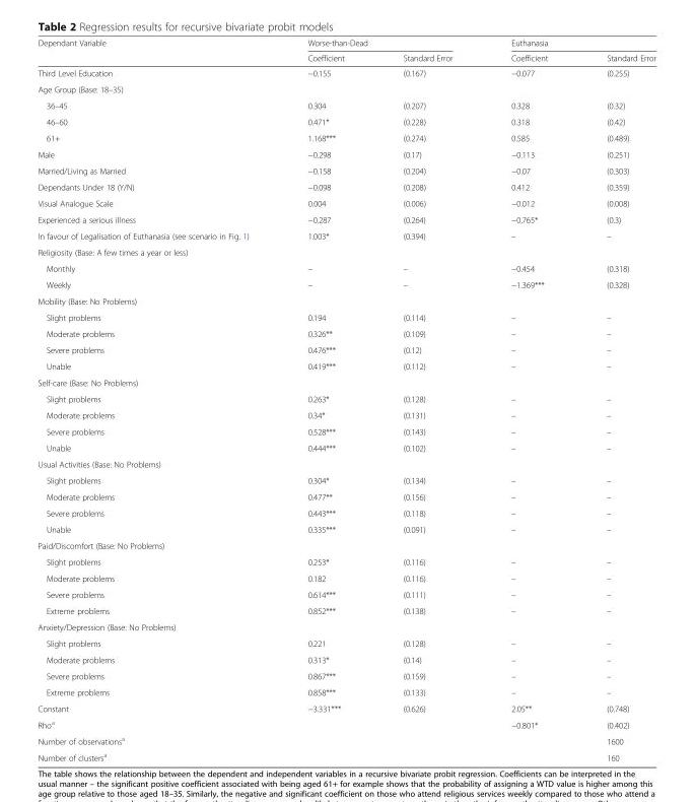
<table><thead><tr><td rowspan="2">Dependant Variable</td><td colspan="2">Worse-than-Dead</td><td colspan="2">Euthanasia</td></tr><tr><td>Coefficient</td><td>Standard Error</td><td>Coefficient</td><td>Standard Error</td></tr></thead><tbody><tr><td>Third Level Education</td><td>−0.155</td><td>(0.167)</td><td>−0.077</td><td>(0.255)</td></tr><tr><td colspan="5">Age Group (Base: 18–35)</td></tr><tr><td>36–45</td><td>0.304</td><td>(0.207)</td><td>0.328</td><td>(0.32)</td></tr><tr><td>46–60</td><td>0.471*</td><td>(0.228)</td><td>0.318</td><td>(0.42)</td></tr><tr><td>61+</td><td>1.168***</td><td>(0.274)</td><td>0.585</td><td>(0.489)</td></tr><tr><td>Male</td><td>−0.298</td><td>(0.17)</td><td>−0.113</td><td>(0.251)</td></tr><tr><td>Married/Living as Married</td><td>−0.158</td><td>(0.204)</td><td>−0.07</td><td>(0.303)</td></tr><tr><td>Dependants Under 18 (Y/N)</td><td>−0.098</td><td>(0.208)</td><td>0.412</td><td>(0.359)</td></tr><tr><td>Visual Analogue Scale</td><td>0.004</td><td>(0.006)</td><td>−0.012</td><td>(0.008)</td></tr><tr><td>Experienced a serious illness</td><td>−0.287</td><td>(0.264)</td><td>−0.765*</td><td>(0.3)</td></tr><tr><td>In favour of Legalisation of Euthanasia (see scenario in Fig. 1)</td><td>1.003*</td><td>(0.394)</td><td>–</td><td>–</td></tr><tr><td colspan="5">Religiosity (Base: A few times a year or less)</td></tr><tr><td>Monthly</td><td>–</td><td>–</td><td>−0.454</td><td>(0.318)</td></tr><tr><td>Weekly</td><td>–</td><td>–</td><td>−1.369***</td><td>(0.328)</td></tr><tr><td colspan="5">Mobility (Base: No Problems)</td></tr><tr><td>Slight problems</td><td>0.194</td><td>(0.114)</td><td>–</td><td>–</td></tr><tr><td>Moderate problems</td><td>0.326**</td><td>(0.109)</td><td>–</td><td>–</td></tr><tr><td>Severe problems</td><td>0.476***</td><td>(0.12)</td><td>–</td><td>–</td></tr><tr><td>Unable</td><td>0.419***</td><td>(0.112)</td><td>–</td><td>–</td></tr><tr><td colspan="5">Self-care (Base: No Problems)</td></tr><tr><td>Slight problems</td><td>0.263*</td><td>(0.128)</td><td>–</td><td>–</td></tr><tr><td>Moderate problems</td><td>0.34*</td><td>(0.131)</td><td>–</td><td>–</td></tr><tr><td>Severe problems</td><td>0.528***</td><td>(0.143)</td><td>–</td><td>–</td></tr><tr><td>Unable</td><td>0.444***</td><td>(0.102)</td><td>–</td><td>–</td></tr><tr><td colspan="5">Usual Activities (Base: No Problems)</td></tr><tr><td>Slight problems</td><td>0.304*</td><td>(0.134)</td><td>–</td><td>–</td></tr><tr><td>Moderate problems</td><td>0.477**</td><td>(0.156)</td><td>–</td><td>–</td></tr><tr><td>Severe problems</td><td>0.443***</td><td>(0.118)</td><td>–</td><td>–</td></tr><tr><td>Unable</td><td>0.335***</td><td>(0.091)</td><td>–</td><td>–</td></tr><tr><td colspan="5">Paid/Discomfort (Base: No Problems)</td></tr><tr><td>Slight problems</td><td>0.253*</td><td>(0.116)</td><td>–</td><td>–</td></tr><tr><td>Moderate problems</td><td>0.182</td><td>(0.116)</td><td>–</td><td>–</td></tr><tr><td>Severe problems</td><td>0.614***</td><td>(0.111)</td><td>–</td><td>–</td></tr><tr><td>Extreme problems</td><td>0.852***</td><td>(0.138)</td><td>–</td><td>–</td></tr><tr><td colspan="5">Anxiety/Depression (Base: No Problems)</td></tr><tr><td>Slight problems</td><td>0.221</td><td>(0.128)</td><td>–</td><td>–</td></tr><tr><td>Moderate problems</td><td>0.313*</td><td>(0.14)</td><td>–</td><td>–</td></tr><tr><td>Severe problems</td><td>0.867***</td><td>(0.159)</td><td>–</td><td>–</td></tr><tr><td>Extreme problems</td><td>0.858***</td><td>(0.133)</td><td>–</td><td>–</td></tr><tr><td>Constant</td><td>−3.331***</td><td>(0.626)</td><td>2.05**</td><td>(0.748)</td></tr><tr><td>Rho<sup>a</sup></td><td></td><td></td><td>−0.801*</td><td>(0.402)</td></tr><tr><td>Number of observations<sup>a</sup></td><td></td><td></td><td></td><td>1600</td></tr><tr><td>Number of clusters<sup>a</sup></td><td></td><td></td><td></td><td>160</td></tr></tbody></table>